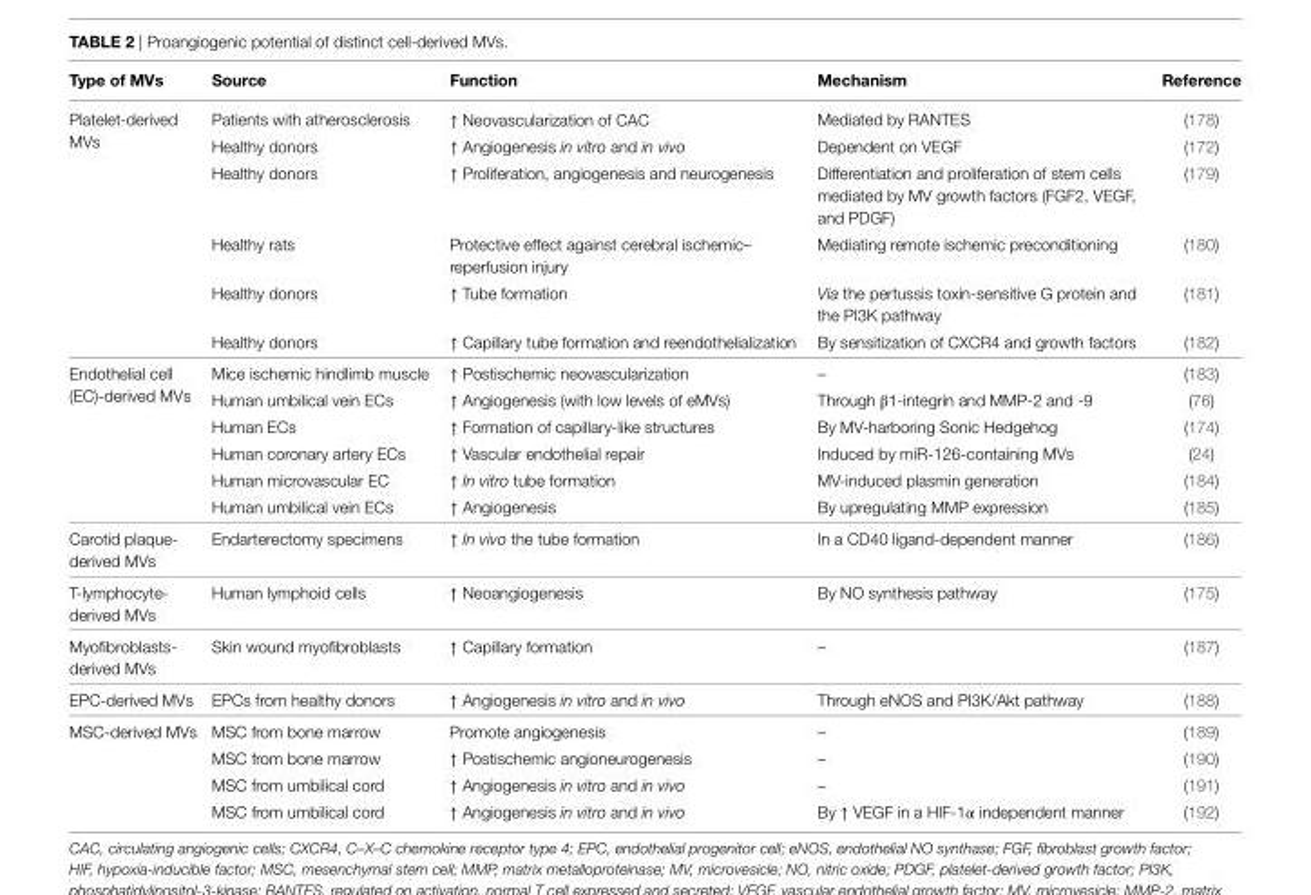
<table><thead><tr><td>Type of Mvs</td><td>Source</td><td>Function</td><td>Mechanism</td><td>Reference</td></tr></thead><tbody><tr><td rowspan="6">Platelet-derived MVs</td><td>Patients with atherosclerosis</td><td>↑ Neovascularization of CAC</td><td>Mediated by RANTES</td><td>(178)</td></tr><tr><td>Healthy donors</td><td>↑ Angiogenesis in vitro and in vivo</td><td>Dependent on VEGF</td><td>(172)</td></tr><tr><td>Healthy donors</td><td>↑ Proliferation, angiogenesis and neurogenesis</td><td>Differentiation and proliferation of stem cells mediated by MV growth factors (FGF2, VEGF, and PDGF)</td><td>(179)</td></tr><tr><td>Healthy rats</td><td>Protective effect against cerebral ischemic– reperfusion injury</td><td>Mediating remote ischemic preconditioning</td><td>(180)</td></tr><tr><td>Healthy donors</td><td>↑ Tube formation</td><td>Via the pertussis toxin-sensitive G protein and the PI3K pathway</td><td>(181)</td></tr><tr><td>Healthy donors</td><td>↑ Capillary tube formation and reendothelialization</td><td>By sensitization of CXCR4 and growth factors</td><td>(182)</td></tr><tr><td rowspan="6">Endothelial cell (EC)-derived MVs</td><td>Mice ischemic hindlimb muscle</td><td>↑ Postischemic neovascularization</td><td>–</td><td>(183)</td></tr><tr><td>Human umbilical vein ECs</td><td>↑ Angiogenesis (with low levels of eMVs)</td><td>Through β1-integrin and MMP-2 and -9</td><td>(76)</td></tr><tr><td>Human ECs</td><td>↑ Formation of capillary-like structures</td><td>By MV-harboring Sonic Hedgehog</td><td>(174)</td></tr><tr><td>Human coronary artery ECs</td><td>↑ Vascular endothelial repair</td><td>Induced by miR-126-containing MVs</td><td>(24)</td></tr><tr><td>Human microvascular EC</td><td>↑ In vitro tube formation</td><td>MV-induced plasmin generation</td><td>(184)</td></tr><tr><td>Human umbilical vein ECs</td><td>↑ Angiogenesis</td><td>By upregulating MMP expression</td><td>(185)</td></tr><tr><td>Carotid plaque- derived MVs</td><td>Endarterectomy specimens</td><td>↑ In vivo the tube formation</td><td>In a CD40 ligand-dependent manner</td><td>(186)</td></tr><tr><td>T-lymphocyte- derived MVs</td><td>Human lymphoid cells</td><td>↑ Neoangiogenesis</td><td>By NO synthesis pathway</td><td>(175)</td></tr><tr><td>Myofibroblasts- derived MVs</td><td>Skin wound myofibroblasts</td><td>↑ Capillary formation</td><td>–</td><td>(187)</td></tr><tr><td>EPC-derived MVs</td><td>EPCs from healthy donors</td><td>↑ Angiogenesis in vitro and in vivo</td><td>Through eNOS and PI3K/Akt pathway</td><td>(188)</td></tr><tr><td rowspan="4">MSC-derived MVs</td><td>MSC from bone marrow</td><td>Promote angiogenesis</td><td>–</td><td>(189)</td></tr><tr><td>MSC from bone marrow</td><td>↑ Postischemic angioneurogenesis</td><td>–</td><td>(190)</td></tr><tr><td>MSC from umbilical cord</td><td>↑ Angiogenesis in vitro and in vivo</td><td>–</td><td>(191)</td></tr><tr><td>MSC from umbilical cord</td><td>↑ Angiogenesis in vitro and in vivo</td><td>By ↑ VEGF in a HIF-1α independent manner</td><td>(192)</td></tr></tbody></table>